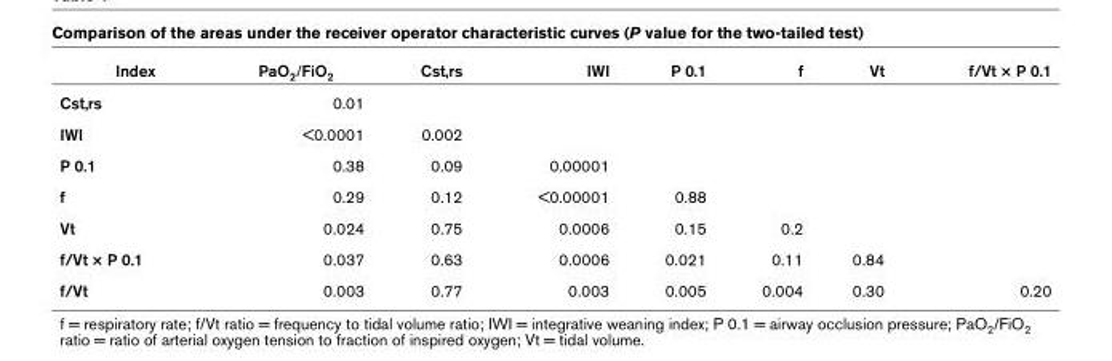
<table><thead><tr><td>Index</td><td>PaO2/FiO2</td><td>Cst,rs</td><td>IWI</td><td>P 0.1</td><td>f</td><td>Vt</td><td>f/Vt × P 0.1</td></tr></thead><tbody><tr><td>Cst,rs</td><td>0.01</td><td></td><td></td><td></td><td></td><td></td><td></td></tr><tr><td>IWI</td><td>&lt;0.0001</td><td>0.002</td><td></td><td></td><td></td><td></td><td></td></tr><tr><td>P 0.1</td><td>0.38</td><td>0.09</td><td>0.00001</td><td></td><td></td><td></td><td></td></tr><tr><td>f</td><td>0.29</td><td>0.12</td><td>&lt;0.00001</td><td>0.88</td><td></td><td></td><td></td></tr><tr><td>Vt</td><td>0.024</td><td>0.75</td><td>0.0006</td><td>0.15</td><td>0.2</td><td></td><td></td></tr><tr><td>f/Vt × P 0.1</td><td>0.037</td><td>0.63</td><td>0.0006</td><td>0.021</td><td>0.11</td><td>0.84</td><td></td></tr><tr><td>f/Vt</td><td>0.003</td><td>0.77</td><td>0.003</td><td>0.005</td><td>0.004</td><td>0.30</td><td>0.20</td></tr></tbody></table>